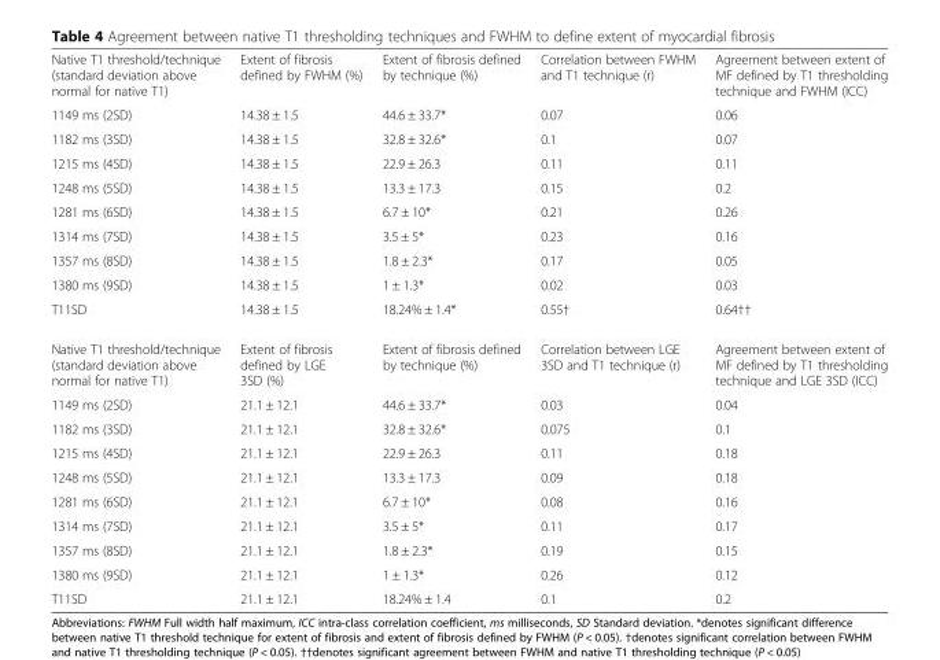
<table><tbody><tr><td>Native T1 threshold/technique (standard deviation above normal for native T1)</td><td>Extent of fibrosis defined by FWHM (%)</td><td>Extent of fibrosis defined by technique (%)</td><td>Correlation between FWHM and T1 technique (r)</td><td>Agreement between extent of MF defined by T1 thresholding technique and FWHM (ICC)</td></tr><tr><td>1149 ms (2SD)</td><td>14.38 ± 1.5</td><td>44.6 ± 33.7*</td><td>0.07</td><td>0.06</td></tr><tr><td>1182 ms (3SD)</td><td>14.38 ± 1.5</td><td>32.8 ± 32.6*</td><td>0.1</td><td>0.07</td></tr><tr><td>1215 ms (4SD)</td><td>14.38 ± 1.5</td><td>22.9 ± 26.3</td><td>0.11</td><td>0.11</td></tr><tr><td>1248 ms (5SD)</td><td>14.38 ± 1.5</td><td>13.3 ± 17.3</td><td>0.15</td><td>0.2</td></tr><tr><td>1281 ms (6SD)</td><td>14.38 ± 1.5</td><td>6.7 ± 10*</td><td>0.21</td><td>0.26</td></tr><tr><td>1314 ms (7SD)</td><td>14.38 ± 1.5</td><td>3.5 ± 5*</td><td>0.23</td><td>0.16</td></tr><tr><td>1357 ms (8SD)</td><td>14.38 ± 1.5</td><td>1.8 ± 2.3*</td><td>0.17</td><td>0.05</td></tr><tr><td>1380 ms (9SD)</td><td>14.38 ± 1.5</td><td>1 ± 1.3*</td><td>0.02</td><td>0.03</td></tr><tr><td>T11SD</td><td>14.38 ± 1.5</td><td>18.24% ± 1.4*</td><td>0.55†</td><td>0.64††</td></tr><tr><td>Native T1 threshold/technique (standard deviation above normal for native T1)</td><td>Extent of fibrosis defined by LGE 3SD (%)</td><td>Extent of fibrosis defined by technique (%)</td><td>Correlation between LGE 3SD and T1 technique (r)</td><td>Agreement between extent of MF defined by T1 thresholding technique and LGE 3SD (ICC)</td></tr><tr><td>1149 ms (2SD)</td><td>21.1 ± 12.1</td><td>44.6 ± 33.7*</td><td>0.03</td><td>0.04</td></tr><tr><td>1182 ms (3SD)</td><td>21.1 ± 12.1</td><td>32.8 ± 32.6*</td><td>0.075</td><td>0.1</td></tr><tr><td>1215 ms (4SD)</td><td>21.1 ± 12.1</td><td>22.9 ± 26.3</td><td>0.11</td><td>0.18</td></tr><tr><td>1248 ms (5SD)</td><td>21.1 ± 12.1</td><td>13.3 ± 17.3</td><td>0.09</td><td>0.18</td></tr><tr><td>1281 ms (6SD)</td><td>21.1 ± 12.1</td><td>6.7 ± 10*</td><td>0.08</td><td>0.16</td></tr><tr><td>1314 ms (7SD)</td><td>21.1 ± 12.1</td><td>3.5 ± 5*</td><td>0.11</td><td>0.17</td></tr><tr><td>1357 ms (8SD)</td><td>21.1 ± 12.1</td><td>1.8 ± 2.3*</td><td>0.19</td><td>0.15</td></tr><tr><td>1380 ms (9SD)</td><td>21.1 ± 12.1</td><td>1 ± 1.3*</td><td>0.26</td><td>0.12</td></tr><tr><td>T11SD</td><td>21.1 ± 12.1</td><td>18.24% ± 1.4</td><td>0.1</td><td>0.2</td></tr></tbody></table>